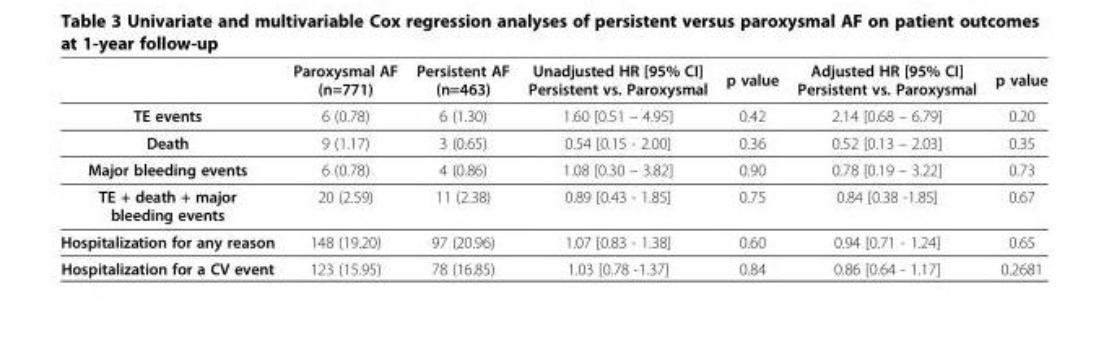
<table><thead><tr><td></td><td>Paroxysmal AF (n=771)</td><td>Persistent AF (n=463)</td><td>Unadjusted HR [95% CI] Persistent vs. Paroxysmal</td><td>p value</td><td>Adjusted HR [95% CI] Persistent vs. Paroxysmal</td><td>p value</td></tr></thead><tbody><tr><td>TE events</td><td>6 (0.78)</td><td>6 (1.30)</td><td>1.60 [0.51 – 4.95]</td><td>0.42</td><td>2.14 [0.68 – 6.79]</td><td>0.20</td></tr><tr><td>Death</td><td>9 (1.17)</td><td>3 (0.65)</td><td>0.54 [0.15 - 2.00]</td><td>0.36</td><td>0.52 [0.13 – 2.03]</td><td>0.35</td></tr><tr><td>Major bleeding events</td><td>6 (0.78)</td><td>4 (0.86)</td><td>1.08 [0.30 – 3.82]</td><td>0.90</td><td>0.78 [0.19 – 3.22]</td><td>0.73</td></tr><tr><td>TE + death + major bleeding events</td><td>20 (2.59)</td><td>11 (2.38)</td><td>0.89 [0.43 - 1.85]</td><td>0.75</td><td>0.84 [0.38 -1.85]</td><td>0.67</td></tr><tr><td>Hospitalization for any reason</td><td>148 (19.20)</td><td>97 (20.96)</td><td>1.07 [0.83 - 1.38]</td><td>0.60</td><td>0.94 [0.71 - 1.24]</td><td>0.65</td></tr><tr><td>Hospitalization for a CV event</td><td>123 (15.95)</td><td>78 (16.85)</td><td>1.03 [0.78 -1.37]</td><td>0.84</td><td>0.86 [0.64 - 1.17]</td><td>0.2681</td></tr></tbody></table>